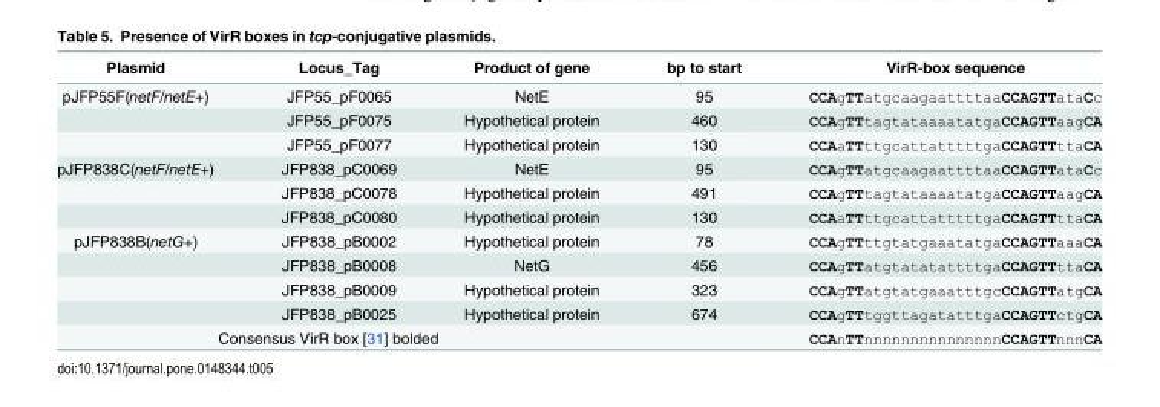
<table><thead><tr><td>Plasmid</td><td>Locus_Tag</td><td>Product of gene</td><td>bp to start</td><td>VirR-box sequence</td></tr></thead><tbody><tr><td rowspan="3">pJFP55F(netF/netE+)</td><td>JFP55_pF0065</td><td>NetE</td><td>95</td><td>CCAgTTatgcaagaattttaaCCAGTTataCc</td></tr><tr><td>JFP55_pF0075</td><td>Hypothetical protein</td><td>460</td><td>CCAgTTtagtataaaatatgaCCAGTTaagCA</td></tr><tr><td>JFP55_pF0077</td><td>Hypothetical protein</td><td>130</td><td>CCAaTTttgcattatttttgaCCAGTTttaCA</td></tr><tr><td rowspan="3">pJFP838C(netF/netE+)</td><td>JFP838_pC0069</td><td>NetE</td><td>95</td><td>CCAgTTatgcaagaattttaaCCAGTTataCc</td></tr><tr><td>JFP838_pC0078</td><td>Hypothetical protein</td><td>491</td><td>CCAgTTtagtataaaatatgaCCAGTTaagCA</td></tr><tr><td>JFP838_pC0080</td><td>Hypothetical protein</td><td>130</td><td>CCAaTTttgcattatttttgaCCAGTTttaCA</td></tr><tr><td rowspan="4">pJFP838B(netG+)</td><td>JFP838_pB0002</td><td>Hypothetical protein</td><td>78</td><td>CCAgTTttgtatgaaatatgaCCAGTTaaaCA</td></tr><tr><td>JFP838_pB0008</td><td>NetG</td><td>456</td><td>CCAgTTatgtatatattttgaCCAGTTttaCA</td></tr><tr><td>JFP838_pB0009</td><td>Hypothetical protein</td><td>323</td><td>CCAgTTatgtatgaaatttgcCCAGTTatgCA</td></tr><tr><td>JFP838_pB0025</td><td>Hypothetical protein</td><td>674</td><td>CCAgTTtggttagatatttgaCCAGTTctgCA</td></tr><tr><td colspan="3">Consensus VirR box [31] bolded</td><td></td><td>CCAnTTnnnnnnnnnnnnnnnCCAGTTnnnCA</td></tr></tbody></table>